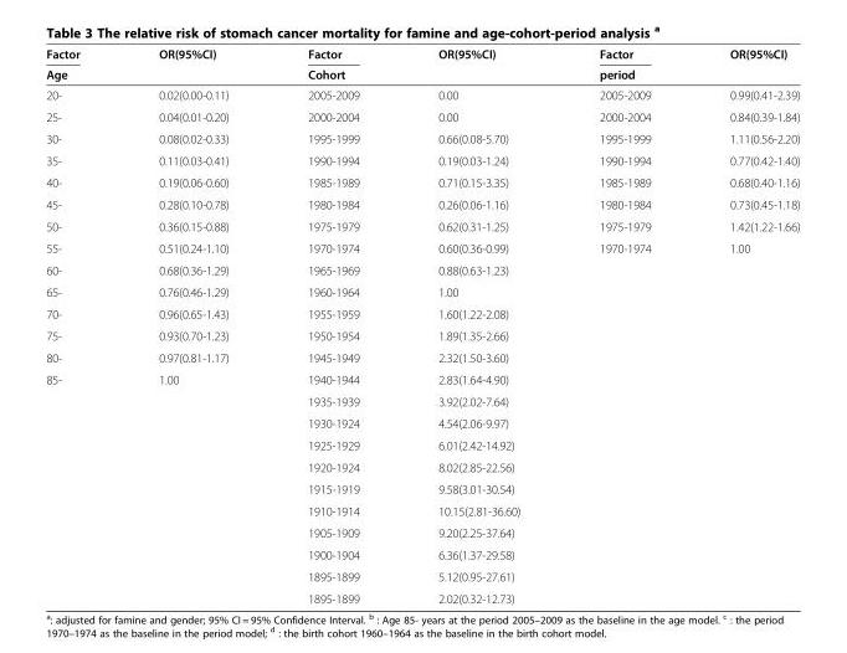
<table><thead><tr><td rowspan="2">Factor Age</td><td rowspan="2">OR(95%CI)</td><td rowspan="2">Factor Cohort</td><td rowspan="2">OR(95%CI)</td><td rowspan="2">Factor period</td><td rowspan="2">OR(95%CI)</td></tr><tr></tr></thead><tbody><tr><td>20-</td><td>0.02(0.00-0.11)</td><td>2005-2009</td><td>0.00</td><td>2005-2009</td><td>0.99(0.41-2.39)</td></tr><tr><td>25-</td><td>0.04(0.01-0.20)</td><td>2000-2004</td><td>0.00</td><td>2000-2004</td><td>0.84(0.39-1.84)</td></tr><tr><td>30-</td><td>0.08(0.02-0.33)</td><td>1995-1999</td><td>0.66(0.08-5.70)</td><td>1995-1999</td><td>1.11(0.56-2.20)</td></tr><tr><td>35-</td><td>0.11(0.03-0.41)</td><td>1990-1994</td><td>0.19(0.03-1.24)</td><td>1990-1994</td><td>0.77(0.42-1.40)</td></tr><tr><td>40-</td><td>0.19(0.06-0.60)</td><td>1985-1989</td><td>0.71(0.15-3.35)</td><td>1985-1989</td><td>0.68(0.40-1.16)</td></tr><tr><td>45-</td><td>0.28(0.10-0.78)</td><td>1980-1984</td><td>0.26(0.06-1.16)</td><td>1980-1984</td><td>0.73(0.45-1.18)</td></tr><tr><td>50-</td><td>0.36(0.15-0.88)</td><td>1975-1979</td><td>0.62(0.31-1.25)</td><td>1975-1979</td><td>1.42(1.22-1.66)</td></tr><tr><td>55-</td><td>0.51(0.24-1.10)</td><td>1970-1974</td><td>0.60(0.36-0.99)</td><td>1970-1974</td><td>1.00</td></tr><tr><td>60-</td><td>0.68(0.36-1.29)</td><td>1965-1969</td><td>0.88(0.63-1.23)</td><td></td><td></td></tr><tr><td>65-</td><td>0.76(0.46-1.29)</td><td>1960-1964</td><td>1.00</td><td></td><td></td></tr><tr><td>70-</td><td>0.96(0.65-1.43)</td><td>1955-1959</td><td>1.60(1.22-2.08)</td><td></td><td></td></tr><tr><td>75-</td><td>0.93(0.70-1.23)</td><td>1950-1954</td><td>1.89(1.35-2.66)</td><td></td><td></td></tr><tr><td>80-</td><td>0.97(0.81-1.17)</td><td>1945-1949</td><td>2.32(1.50-3.60)</td><td></td><td></td></tr><tr><td rowspan="11">85-</td><td>1.00</td><td>1940-1944</td><td>2.83(1.64-4.90)</td><td></td><td></td></tr><tr><td></td><td>1935-1939</td><td>3.92(2.02-7.64)</td><td></td><td></td></tr><tr><td></td><td>1930-1924</td><td>4.54(2.06-9.97)</td><td></td><td></td></tr><tr><td></td><td>1925-1929</td><td>6.01(2.42-14.92)</td><td></td><td></td></tr><tr><td></td><td>1920-1924</td><td>8.02(2.85-22.56)</td><td></td><td></td></tr><tr><td></td><td>1915-1919</td><td>9.58(3.01-30.54)</td><td></td><td></td></tr><tr><td></td><td>1910-1914</td><td>10.15(2.81-36.60)</td><td></td><td></td></tr><tr><td></td><td>1905-1909</td><td>9.20(2.25-37.64)</td><td></td><td></td></tr><tr><td></td><td>1900-1904</td><td>6.36(1.37-29.58)</td><td></td><td></td></tr><tr><td></td><td>1895-1899</td><td>5.12(0.95-27.61)</td><td></td><td></td></tr><tr><td></td><td>1895-1899</td><td>2.02(0.32-12.73)</td><td></td><td></td></tr></tbody></table>